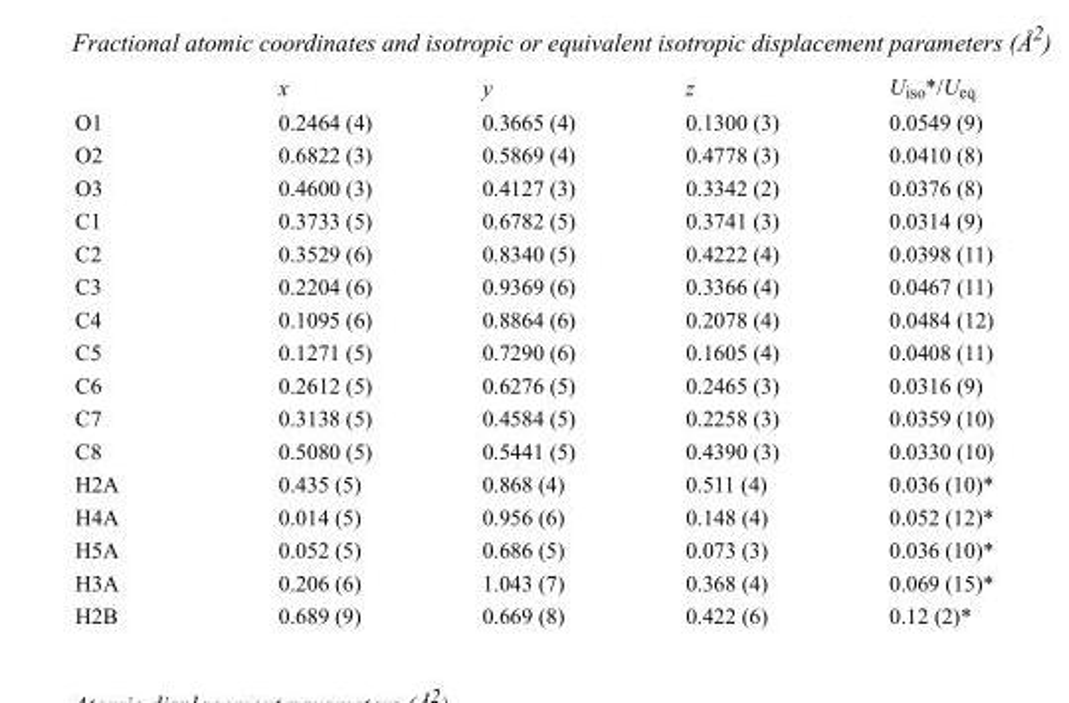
<table><thead><tr><td></td><td>x</td><td>y</td><td>z</td><td>U<sub>iso</sub>*/U<sub>eq</sub></td></tr></thead><tbody><tr><td>O1</td><td>0.2464 (4)</td><td>0.3665 (4)</td><td>0.1300 (3)</td><td>0.0549 (9)</td></tr><tr><td>O2</td><td>0.6822 (3)</td><td>0.5869 (4)</td><td>0.4778 (3)</td><td>0.0410 (8)</td></tr><tr><td>O3</td><td>0.4600 (3)</td><td>0.4127 (3)</td><td>0.3342 (2)</td><td>0.0376 (8)</td></tr><tr><td>C1</td><td>0.3733 (5)</td><td>0.6782 (5)</td><td>0.3741 (3)</td><td>0.0314 (9)</td></tr><tr><td>C2</td><td>0.3529 (6)</td><td>0.8340 (5)</td><td>0.4222 (4)</td><td>0.0398 (11)</td></tr><tr><td>C3</td><td>0.2204 (6)</td><td>0.9369 (6)</td><td>0.3366 (4)</td><td>0.0467 (11)</td></tr><tr><td>C4</td><td>0.1095 (6)</td><td>0.8864 (6)</td><td>0.2078 (4)</td><td>0.0484 (12)</td></tr><tr><td>C5</td><td>0.1271 (5)</td><td>0.7290 (6)</td><td>0.1605 (4)</td><td>0.0408 (11)</td></tr><tr><td>C6</td><td>0.2612 (5)</td><td>0.6276 (5)</td><td>0.2465 (3)</td><td>0.0316 (9)</td></tr><tr><td>C7</td><td>0.3138 (5)</td><td>0.4584 (5)</td><td>0.2258 (3)</td><td>0.0359 (10)</td></tr><tr><td>C8</td><td>0.5080 (5)</td><td>0.5441 (5)</td><td>0.4390 (3)</td><td>0.0330 (10)</td></tr><tr><td>H2A</td><td>0.435 (5)</td><td>0.868 (4)</td><td>0.511 (4)</td><td>0.036 (10)*</td></tr><tr><td>H4A</td><td>0.014 (5)</td><td>0.956 (6)</td><td>0.148 (4)</td><td>0.052 (12)*</td></tr><tr><td>H5A</td><td>0.052 (5)</td><td>0.686 (5)</td><td>0.073 (3)</td><td>0.036 (10)*</td></tr><tr><td>H3A</td><td>0.206 (6)</td><td>1.043 (7)</td><td>0.368 (4)</td><td>0.069 (15)*</td></tr><tr><td>H2B</td><td>0.689 (9)</td><td>0.669 (8)</td><td>0.422 (6)</td><td>0.12 (2)*</td></tr></tbody></table>